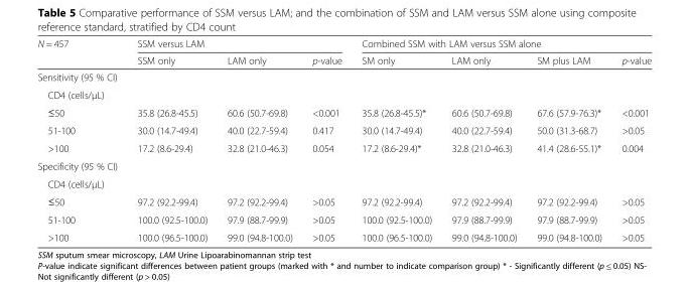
<table><thead><tr><td rowspan="2">N = 457</td><td colspan="3">SSM versus LAM</td><td colspan="4">Combined SSM with LAM versus SSM alone</td></tr><tr><td>SSM only</td><td>LAM only</td><td>p-value</td><td>SM only</td><td>LAM only</td><td>SM plus LAM</td><td>p-value</td></tr></thead><tbody><tr><td colspan="8">Sensitivity (95 % CI)</td></tr><tr><td colspan="8">CD4 (cells/μL)</td></tr><tr><td>≤50</td><td>35.8 (26.8-45.5)</td><td>60.6 (50.7-69.8)</td><td>&lt;0.001</td><td>35.8 (26.8-45.5)*</td><td>60.6 (50.7-69.8)</td><td>67.6 (57.9-76.3)*</td><td>&lt;0.001</td></tr><tr><td>51-100</td><td>30.0 (14.7-49.4)</td><td>40.0 (22.7-59.4)</td><td>0.417</td><td>30.0 (14.7-49.4)</td><td>40.0 (22.7-59.4)</td><td>50.0 (31.3-68.7)</td><td>&gt;0.05</td></tr><tr><td>&gt;100</td><td>17.2 (8.6-29.4)</td><td>32.8 (21.0-46.3)</td><td>0.054</td><td>17.2 (8.6-29.4)*</td><td>32.8 (21.0-46.3)</td><td>41.4 (28.6-55.1)*</td><td>0.004</td></tr><tr><td colspan="8">Specificity (95 % CI)</td></tr><tr><td colspan="8">CD4 (cells/μL)</td></tr><tr><td>≤50</td><td>97.2 (92.2-99.4)</td><td>97.2 (92.2-99.4)</td><td>&gt;0.05</td><td>97.2 (92.2-99.4)</td><td>97.2 (92.2-99.4)</td><td>97.2 (92.2-99.4)</td><td>&gt;0.05</td></tr><tr><td>51-100</td><td>100.0 (92.5-100.0)</td><td>97.9 (88.7-99.9)</td><td>&gt;0.05</td><td>100.0 (92.5-100.0)</td><td>97.9 (88.7-99.9)</td><td>97.9 (88.7-99.9)</td><td>&gt;0.05</td></tr><tr><td>&gt;100</td><td>100.0 (96.5-100.0)</td><td>99.0 (94.8-100.0)</td><td>&gt;0.05</td><td>100.0 (96.5-100.0)</td><td>99.0 (94.8-100.0)</td><td>99.0 (94.8-100.0)</td><td>&gt;0.05</td></tr></tbody></table>